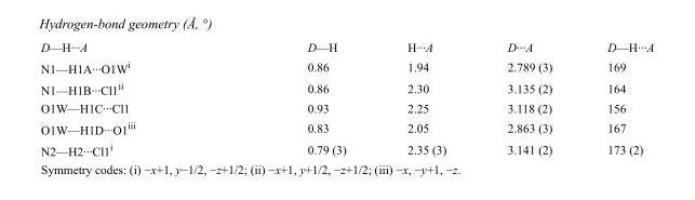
<table><tbody><tr><td>D—H···A</td><td>D—H</td><td>H···A</td><td>D···A</td><td>D—H···A</td></tr><tr><td>N1—H1A···O1W<sup>i</sup></td><td>0.86</td><td>1.94</td><td>2.789 (3)</td><td>169</td></tr><tr><td>N1—H1B···Cl1<sup>ii</sup></td><td>0.86</td><td>2.30</td><td>3.135 (2)</td><td>164</td></tr><tr><td>O1W—H1C···Cl1</td><td>0.93</td><td>2.25</td><td>3.118 (2)</td><td>156</td></tr><tr><td>O1W—H1D···O1<sup>iii</sup></td><td>0.83</td><td>2.05</td><td>2.863 (3)</td><td>167</td></tr><tr><td>N2—H2···Cl1<sup>i</sup></td><td>0.79 (3)</td><td>2.35 (3)</td><td>3.141 (2)</td><td>173 (2)</td></tr></tbody></table>